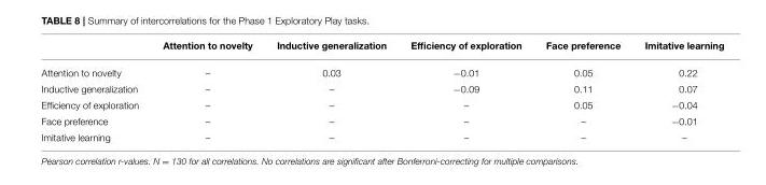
<table><thead><tr><td></td><td>Attention to novelty</td><td>Inductive generalization</td><td>Efficiency of exploration</td><td>Face preference</td><td>Imitative learning</td></tr></thead><tbody><tr><td>Attention to novelty</td><td>–</td><td>0.03</td><td>−0.01</td><td>0.05</td><td>0.22</td></tr><tr><td>Inductive generalization</td><td>–</td><td>–</td><td>−0.09</td><td>0.11</td><td>0.07</td></tr><tr><td>Efficiency of exploration</td><td>–</td><td>–</td><td>–</td><td>0.05</td><td>−0.04</td></tr><tr><td>Face preference</td><td>–</td><td>–</td><td>–</td><td>–</td><td>−0.01</td></tr><tr><td>Imitative learning</td><td>–</td><td>–</td><td>–</td><td>–</td><td>–</td></tr></tbody></table>